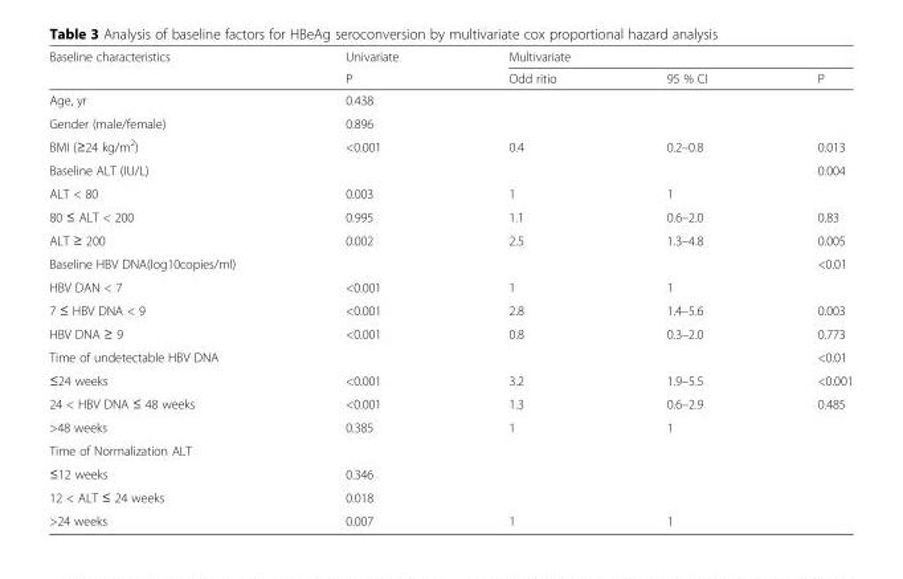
<table><thead><tr><td rowspan="2">Baseline characteristics</td><td rowspan="2">Univariate P</td><td colspan="3">Multivariate</td></tr><tr><td>Odd ritio</td><td>95 % CI</td><td>P</td></tr></thead><tbody><tr><td>Age, yr</td><td>0.438</td><td></td><td></td><td></td></tr><tr><td>Gender (male/female)</td><td>0.896</td><td></td><td></td><td></td></tr><tr><td>BMI (≥24 kg/m<sup>2</sup>)</td><td>&lt;0.001</td><td>0.4</td><td>0.2–0.8</td><td>0.013</td></tr><tr><td>Baseline ALT (IU/L)</td><td></td><td></td><td></td><td>0.004</td></tr><tr><td>ALT &lt; 80</td><td>0.003</td><td>1</td><td>1</td><td></td></tr><tr><td>80 ≤ ALT &lt; 200</td><td>0.995</td><td>1.1</td><td>0.6–2.0</td><td>0.83</td></tr><tr><td>ALT ≥ 200</td><td>0.002</td><td>2.5</td><td>1.3–4.8</td><td>0.005</td></tr><tr><td>Baseline HBV DNA(log10copies/ml)</td><td></td><td></td><td></td><td>&lt;0.01</td></tr><tr><td>HBV DAN &lt; 7</td><td>&lt;0.001</td><td>1</td><td>1</td><td></td></tr><tr><td>7 ≤ HBV DNA &lt; 9</td><td>&lt;0.001</td><td>2.8</td><td>1.4–5.6</td><td>0.003</td></tr><tr><td>HBV DNA ≥ 9</td><td>&lt;0.001</td><td>0.8</td><td>0.3–2.0</td><td>0.773</td></tr><tr><td>Time of undetectable HBV DNA</td><td></td><td></td><td></td><td>&lt;0.01</td></tr><tr><td>≤24 weeks</td><td>&lt;0.001</td><td>3.2</td><td>1.9–5.5</td><td>&lt;0.001</td></tr><tr><td>24 &lt; HBV DNA ≤ 48 weeks</td><td>&lt;0.001</td><td>1.3</td><td>0.6–2.9</td><td>0.485</td></tr><tr><td>&gt;48 weeks</td><td>0.385</td><td>1</td><td>1</td><td></td></tr><tr><td colspan="5">Time of Normalization ALT</td></tr><tr><td>≤12 weeks</td><td>0.346</td><td></td><td></td><td></td></tr><tr><td>12 &lt; ALT ≤ 24 weeks</td><td>0.018</td><td></td><td></td><td></td></tr><tr><td>&gt;24 weeks</td><td>0.007</td><td>1</td><td>1</td><td></td></tr></tbody></table>